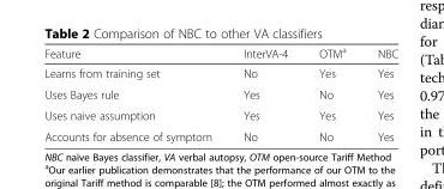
<table><thead><tr><td>Feature</td><td>InterVA-4</td><td>OTM<sup>a</sup></td><td>NBC</td></tr></thead><tbody><tr><td>Learns from training set</td><td>No</td><td>Yes</td><td>Yes</td></tr><tr><td>Uses Bayes rule</td><td>Yes</td><td>No</td><td>Yes</td></tr><tr><td>Uses naive assumption</td><td>Yes</td><td>Yes</td><td>Yes</td></tr><tr><td>Accounts for absence of symptom</td><td>No</td><td>No</td><td>Yes</td></tr></tbody></table>